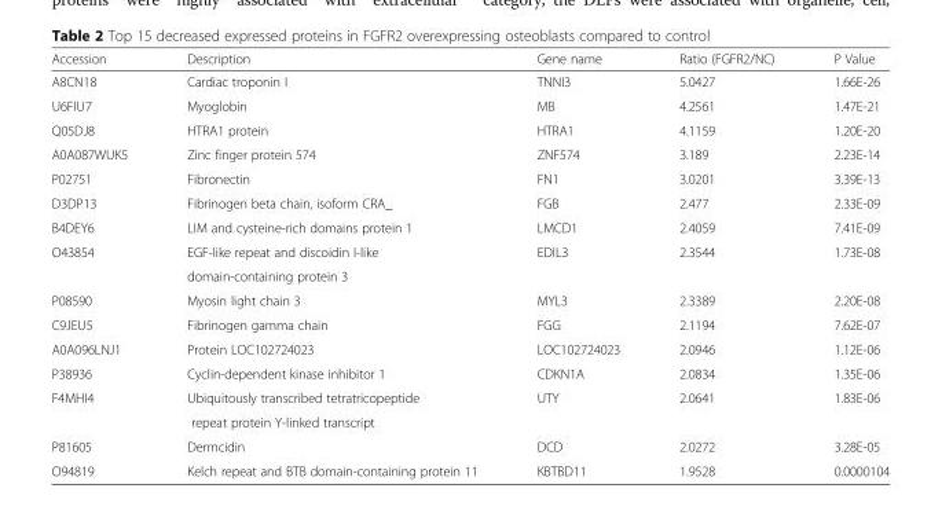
<table><thead><tr><td>Accession</td><td>Description</td><td>Gene name</td><td>Ratio (FGFR2/NC)</td><td>P Value</td></tr></thead><tbody><tr><td>A8CN18</td><td>Cardiac troponin I</td><td>TNNI3</td><td>5.0427</td><td>1.66E-26</td></tr><tr><td>U6FIU7</td><td>Myoglobin</td><td>MB</td><td>4.2561</td><td>1.47E-21</td></tr><tr><td>Q05DJ8</td><td>HTRA1 protein</td><td>HTRA1</td><td>4.1159</td><td>1.20E-20</td></tr><tr><td>A0A087WUK5</td><td>Zinc finger protein 574</td><td>ZNF574</td><td>3.189</td><td>2.23E-14</td></tr><tr><td>P02751</td><td>Fibronectin</td><td>FN1</td><td>3.0201</td><td>3.39E-13</td></tr><tr><td>D3DP13</td><td>Fibrinogen beta chain, isoform CRA_</td><td>FGB</td><td>2.477</td><td>2.33E-09</td></tr><tr><td>B4DEY6</td><td>LIM and cysteine-rich domains protein 1</td><td>LMCD1</td><td>2.4059</td><td>7.41E-09</td></tr><tr><td rowspan="2">O43854</td><td>EGF-like repeat and discoidin I-like</td><td rowspan="2">EDIL3</td><td rowspan="2">2.3544</td><td rowspan="2">1.73E-08</td></tr><tr><td>domain-containing protein 3</td></tr><tr><td>P08590</td><td>Myosin light chain 3</td><td>MYL3</td><td>2.3389</td><td>2.20E-08</td></tr><tr><td>C9JEU5</td><td>Fibrinogen gamma chain</td><td>FGG</td><td>2.1194</td><td>7.62E-07</td></tr><tr><td>A0A096LNJ1</td><td>Protein LOC102724023</td><td>LOC102724023</td><td>2.0946</td><td>1.12E-06</td></tr><tr><td>P38936</td><td>Cyclin-dependent kinase inhibitor 1</td><td>CDKN1A</td><td>2.0834</td><td>1.35E-06</td></tr><tr><td rowspan="2">F4MHI4</td><td>Ubiquitously transcribed tetratricopeptide</td><td rowspan="2">UTY</td><td rowspan="2">2.0641</td><td rowspan="2">1.83E-06</td></tr><tr><td>repeat protein Y-linked transcript</td></tr><tr><td>P81605</td><td>Dermcidin</td><td>DCD</td><td>2.0272</td><td>3.28E-05</td></tr><tr><td>O94819</td><td>Kelch repeat and BTB domain-containing protein 11</td><td>KBTBD11</td><td>1.9528</td><td>0.0000104</td></tr></tbody></table>